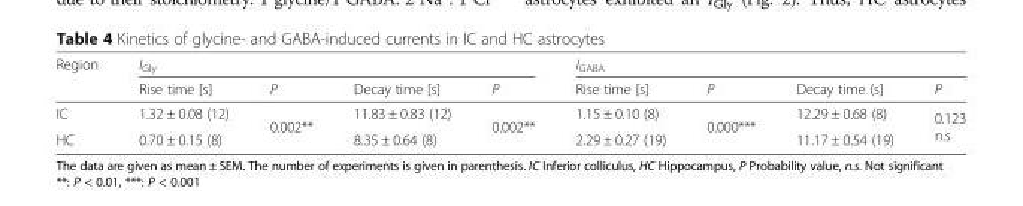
<table><thead><tr><td rowspan="2">Region</td><td colspan="4">I<sub>Gly</sub></td><td colspan="4">I<sub>GABA</sub></td></tr><tr><td>Rise time [s]</td><td>P</td><td>Decay time [s]</td><td>P</td><td>Rise time [s]</td><td>P</td><td>Decay time (s]</td><td>P</td></tr></thead><tbody><tr><td>IC</td><td>1.32 ± 0.08 (12)</td><td rowspan="2">0.002**</td><td>11.83 ± 0.83 (12)</td><td rowspan="2">0.002**</td><td>1.15 ± 0.10 (8)</td><td rowspan="2">0.000***</td><td>12.29 ± 0.68 (8)</td><td rowspan="2">0.123 n.s</td></tr><tr><td>HC</td><td>0.70 ± 0.15 (8)</td><td>8.35 ± 0.64 (8)</td><td>2.29 ± 0.27 (19)</td><td>11.17 ± 0.54 (19)</td></tr></tbody></table>